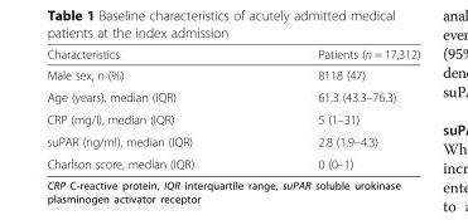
<table><thead><tr><td>Characteristics</td><td>Patients (n = 17,312)</td></tr></thead><tbody><tr><td>Male sex, n (%)</td><td>8118 (47)</td></tr><tr><td>Age (years), median (IQR)</td><td>61.3 (43.3–76.3)</td></tr><tr><td>CRP (mg/l), median (IQR)</td><td>5 (1–31)</td></tr><tr><td>suPAR (ng/ml), median (IQR)</td><td>2.8 (1.9–4.3)</td></tr><tr><td>Charlson score, median (IQR)</td><td>0 (0–1)</td></tr></tbody></table>